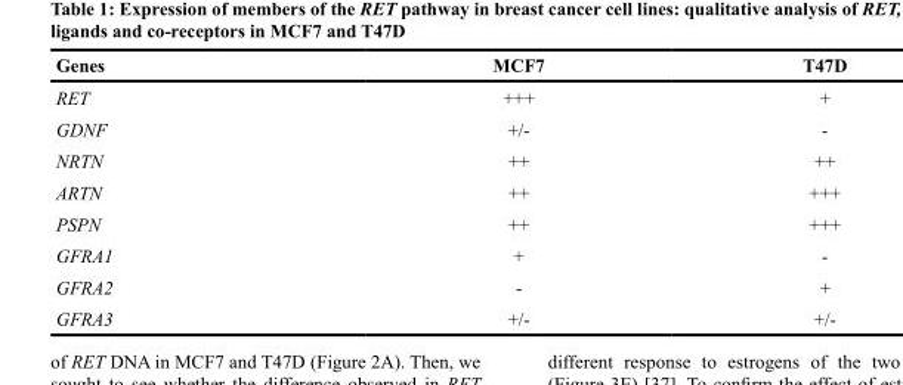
<table><thead><tr><td>Genes</td><td>MCF7</td><td>T47D</td></tr></thead><tbody><tr><td>RET</td><td>+++</td><td>+</td></tr><tr><td>GDNF</td><td>+/-</td><td>-</td></tr><tr><td>NRTN</td><td>++</td><td>++</td></tr><tr><td>ARTN</td><td>++</td><td>+++</td></tr><tr><td>PSPN</td><td>++</td><td>+++</td></tr><tr><td>GFRA1</td><td>+</td><td>-</td></tr><tr><td>GFRA2</td><td>-</td><td>+</td></tr><tr><td>GFRA3</td><td>+/-</td><td>+/-</td></tr></tbody></table>